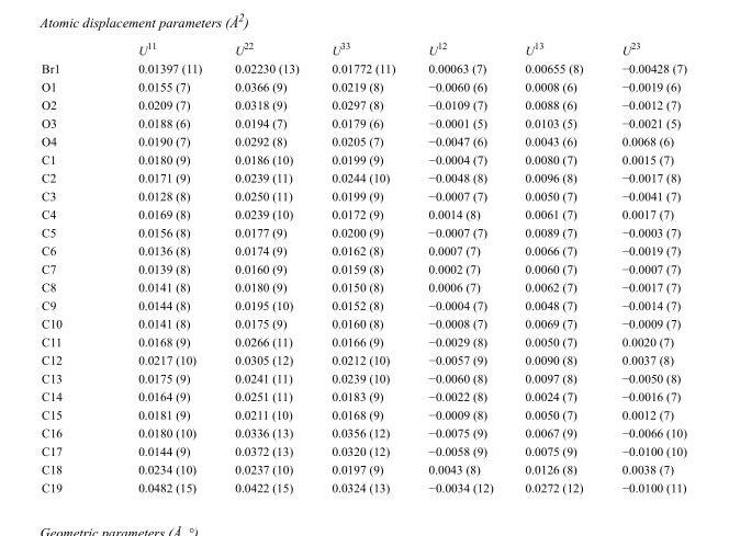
<table><thead><tr><td></td><td>U<sup>11</sup></td><td>U<sup>22</sup></td><td>U<sup>33</sup></td><td>U<sup>12</sup></td><td>U<sup>13</sup></td><td>U<sup>23</sup></td></tr></thead><tbody><tr><td>Br1</td><td>0.01397 (11)</td><td>0.02230 (13)</td><td>0.01772 (11)</td><td>0.00063 (7)</td><td>0.00655 (8)</td><td>−0.00428 (7)</td></tr><tr><td>O1</td><td>0.0155 (7)</td><td>0.0366 (9)</td><td>0.0219 (8)</td><td>−0.0060 (6)</td><td>0.0008 (6)</td><td>−0.0019 (6)</td></tr><tr><td>O2</td><td>0.0209 (7)</td><td>0.0318 (9)</td><td>0.0297 (8)</td><td>−0.0109 (7)</td><td>0.0088 (6)</td><td>−0.0012 (7)</td></tr><tr><td>O3</td><td>0.0188 (6)</td><td>0.0194 (7)</td><td>0.0179 (6)</td><td>−0.0001 (5)</td><td>0.0103 (5)</td><td>−0.0021 (5)</td></tr><tr><td>O4</td><td>0.0190 (7)</td><td>0.0292 (8)</td><td>0.0205 (7)</td><td>−0.0047 (6)</td><td>0.0043 (6)</td><td>0.0068 (6)</td></tr><tr><td>C1</td><td>0.0180 (9)</td><td>0.0186 (10)</td><td>0.0199 (9)</td><td>−0.0004 (7)</td><td>0.0080 (7)</td><td>0.0015 (7)</td></tr><tr><td>C2</td><td>0.0171 (9)</td><td>0.0239 (11)</td><td>0.0244 (10)</td><td>−0.0048 (8)</td><td>0.0096 (8)</td><td>−0.0017 (8)</td></tr><tr><td>C3</td><td>0.0128 (8)</td><td>0.0250 (11)</td><td>0.0199 (9)</td><td>−0.0007 (7)</td><td>0.0050 (7)</td><td>−0.0041 (7)</td></tr><tr><td>C4</td><td>0.0169 (8)</td><td>0.0239 (10)</td><td>0.0172 (9)</td><td>0.0014 (8)</td><td>0.0061 (7)</td><td>0.0017 (7)</td></tr><tr><td>C5</td><td>0.0156 (8)</td><td>0.0177 (9)</td><td>0.0200 (9)</td><td>−0.0007 (7)</td><td>0.0089 (7)</td><td>−0.0003 (7)</td></tr><tr><td>C6</td><td>0.0136 (8)</td><td>0.0174 (9)</td><td>0.0162 (8)</td><td>0.0007 (7)</td><td>0.0066 (7)</td><td>−0.0019 (7)</td></tr><tr><td>C7</td><td>0.0139 (8)</td><td>0.0160 (9)</td><td>0.0159 (8)</td><td>0.0002 (7)</td><td>0.0060 (7)</td><td>−0.0007 (7)</td></tr><tr><td>C8</td><td>0.0141 (8)</td><td>0.0180 (9)</td><td>0.0150 (8)</td><td>0.0006 (7)</td><td>0.0062 (7)</td><td>−0.0017 (7)</td></tr><tr><td>C9</td><td>0.0144 (8)</td><td>0.0195 (10)</td><td>0.0152 (8)</td><td>−0.0004 (7)</td><td>0.0048 (7)</td><td>−0.0014 (7)</td></tr><tr><td>C10</td><td>0.0141 (8)</td><td>0.0175 (9)</td><td>0.0160 (8)</td><td>−0.0008 (7)</td><td>0.0069 (7)</td><td>−0.0009 (7)</td></tr><tr><td>C11</td><td>0.0168 (9)</td><td>0.0266 (11)</td><td>0.0166 (9)</td><td>−0.0029 (8)</td><td>0.0050 (7)</td><td>0.0020 (7)</td></tr><tr><td>C12</td><td>0.0217 (10)</td><td>0.0305 (12)</td><td>0.0212 (10)</td><td>−0.0057 (9)</td><td>0.0090 (8)</td><td>0.0037 (8)</td></tr><tr><td>C13</td><td>0.0175 (9)</td><td>0.0241 (11)</td><td>0.0239 (10)</td><td>−0.0060 (8)</td><td>0.0097 (8)</td><td>−0.0050 (8)</td></tr><tr><td>C14</td><td>0.0164 (9)</td><td>0.0251 (11)</td><td>0.0183 (9)</td><td>−0.0022 (8)</td><td>0.0024 (7)</td><td>−0.0016 (7)</td></tr><tr><td>C15</td><td>0.0181 (9)</td><td>0.0211 (10)</td><td>0.0168 (9)</td><td>−0.0009 (8)</td><td>0.0050 (7)</td><td>0.0012 (7)</td></tr><tr><td>C16</td><td>0.0180 (10)</td><td>0.0336 (13)</td><td>0.0356 (12)</td><td>−0.0075 (9)</td><td>0.0067 (9)</td><td>−0.0066 (10)</td></tr><tr><td>C17</td><td>0.0144 (9)</td><td>0.0372 (13)</td><td>0.0320 (12)</td><td>−0.0058 (9)</td><td>0.0075 (9)</td><td>−0.0100 (10)</td></tr><tr><td>C18</td><td>0.0234 (10)</td><td>0.0237 (10)</td><td>0.0197 (9)</td><td>0.0043 (8)</td><td>0.0126 (8)</td><td>0.0038 (7)</td></tr><tr><td>C19</td><td>0.0482 (15)</td><td>0.0422 (15)</td><td>0.0324 (13)</td><td>−0.0034 (12)</td><td>0.0272 (12)</td><td>−0.0100 (11)</td></tr></tbody></table>